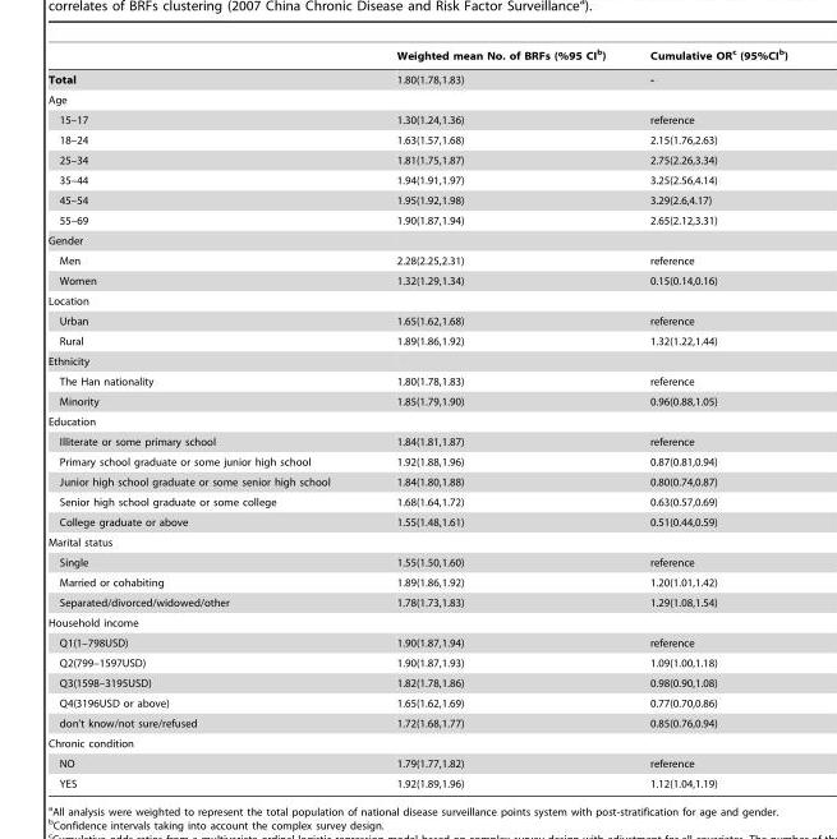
<table><thead><tr><td></td><td>Weighted mean No. of BRFs (%95 CI<sup>b</sup>)</td><td>Cumulative OR<sup>c</sup> (95%CI<sup>b</sup>)</td></tr></thead><tbody><tr><td>Total</td><td>1.80(1.78,1.83)</td><td>-</td></tr><tr><td colspan="3">Age</td></tr><tr><td>15–17</td><td>1.30(1.24,1.36)</td><td>reference</td></tr><tr><td>18–24</td><td>1.63(1.57,1.68)</td><td>2.15(1.76,2.63)</td></tr><tr><td>25–34</td><td>1.81(1.75,1.87)</td><td>2.75(2.26,3.34)</td></tr><tr><td>35–44</td><td>1.94(1.91,1.97)</td><td>3.25(2.56,4.14)</td></tr><tr><td>45–54</td><td>1.95(1.92,1.98)</td><td>3.29(2.6,4.17)</td></tr><tr><td>55–69</td><td>1.90(1.87,1.94)</td><td>2.65(2.12,3.31)</td></tr><tr><td colspan="3">Gender</td></tr><tr><td>Men</td><td>2.28(2.25,2.31)</td><td>reference</td></tr><tr><td>Women</td><td>1.32(1.29,1.34)</td><td>0.15(0.14,0.16)</td></tr><tr><td colspan="3">Location</td></tr><tr><td>Urban</td><td>1.65(1.62,1.68)</td><td>reference</td></tr><tr><td>Rural</td><td>1.89(1.86,1.92)</td><td>1.32(1.22,1.44)</td></tr><tr><td colspan="3">Ethnicity</td></tr><tr><td>The Han nationality</td><td>1.80(1.78,1.83)</td><td>reference</td></tr><tr><td>Minority</td><td>1.85(1.79,1.90)</td><td>0.96(0.88,1.05)</td></tr><tr><td colspan="3">Education</td></tr><tr><td>Illiterate or some primary school</td><td>1.84(1.81,1.87)</td><td>reference</td></tr><tr><td>Primary school graduate or some junior high school</td><td>1.92(1.88,1.96)</td><td>0.87(0.81,0.94)</td></tr><tr><td>Junior high school graduate or some senior high school</td><td>1.84(1.80,1.88)</td><td>0.80(0.74,0.87)</td></tr><tr><td>Senior high school graduate or some college</td><td>1.68(1.64,1.72)</td><td>0.63(0.57,0.69)</td></tr><tr><td>College graduate or above</td><td>1.55(1.48,1.61)</td><td>0.51(0.44,0.59)</td></tr><tr><td colspan="3">Marital status</td></tr><tr><td>Single</td><td>1.55(1.50,1.60)</td><td>reference</td></tr><tr><td>Married or cohabiting</td><td>1.89(1.86,1.92)</td><td>1.20(1.01,1.42)</td></tr><tr><td>Separated/divorced/widowed/other</td><td>1.78(1.73,1.83)</td><td>1.29(1.08,1.54)</td></tr><tr><td colspan="3">Household income</td></tr><tr><td>Q1(1–798USD)</td><td>1.90(1.87,1.94)</td><td>reference</td></tr><tr><td>Q2(799–1597USD)</td><td>1.90(1.87,1.93)</td><td>1.09(1.00,1.18)</td></tr><tr><td>Q3(1598–3195USD)</td><td>1.82(1.78,1.86)</td><td>0.98(0.90,1.08)</td></tr><tr><td>Q4(3196USD or above)</td><td>1.65(1.62,1.69)</td><td>0.77(0.70,0.86)</td></tr><tr><td>don’t know/not sure/refused</td><td>1.72(1.68,1.77)</td><td>0.85(0.76,0.94)</td></tr><tr><td colspan="3">Chronic condition</td></tr><tr><td>NO</td><td>1.79(1.77,1.82)</td><td>reference</td></tr><tr><td>YES</td><td>1.92(1.89,1.96)</td><td>1.12(1.04,1.19)</td></tr></tbody></table>